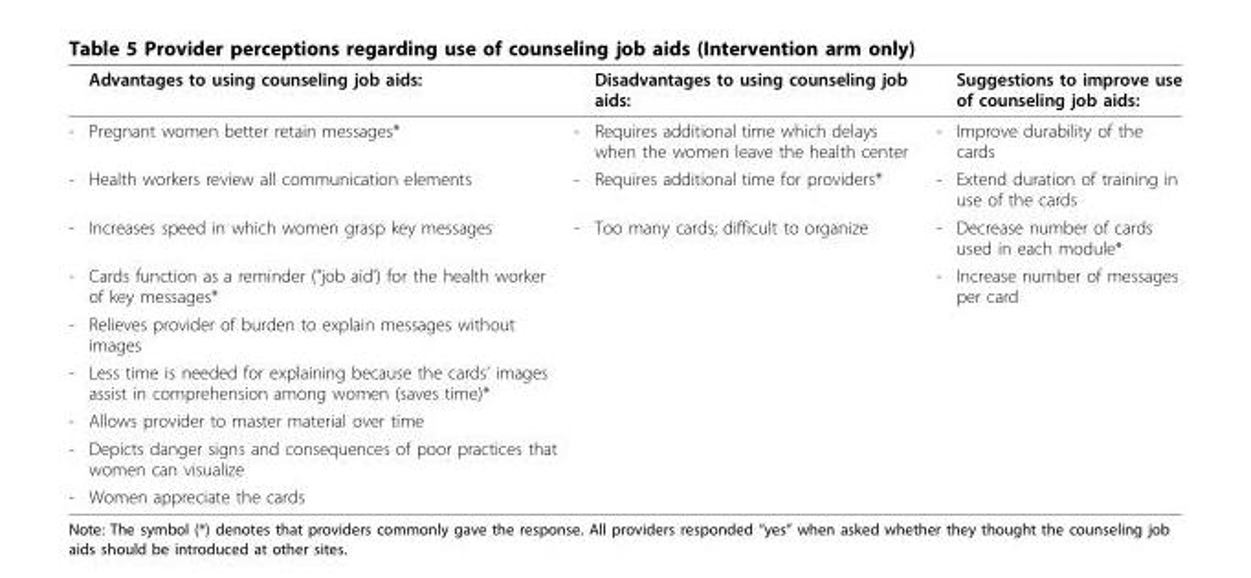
<table><thead><tr><td></td><td>Advantages to using counseling job aids:</td><td></td><td>Disadvantages to using counseling job aids:</td><td></td><td>Suggestions to improve use of counseling job aids:</td></tr></thead><tbody><tr><td>-</td><td>Pregnant women better retain messages*</td><td>-</td><td>Requires additional time which delays when the women leave the health center</td><td>-</td><td>Improve durability of the cards</td></tr><tr><td>-</td><td>Health workers review all communication elements</td><td>-</td><td>Requires additional time for providers*</td><td>-</td><td>Extend duration of training in use of the cards</td></tr><tr><td>-</td><td>Increases speed in which women grasp key messages</td><td>-</td><td>Too many cards; difficult to organize</td><td>-</td><td>Decrease number of cards used in each module*</td></tr><tr><td>-</td><td>Cards function as a reminder (&quot;job aid’) for the health worker of key messages*</td><td></td><td></td><td>-</td><td>Increase number of messages per card</td></tr><tr><td>-</td><td>Relieves provider of burden to explain messages without images</td><td></td><td></td><td></td><td></td></tr><tr><td>-</td><td>Less time is needed for explaining because the cards’ images assist in comprehension among women (saves time)*</td><td></td><td></td><td></td><td></td></tr><tr><td>-</td><td>Allows provider to master material over time</td><td></td><td></td><td></td><td></td></tr><tr><td>-</td><td>Depicts danger signs and consequences of poor practices that women can visualize</td><td></td><td></td><td></td><td></td></tr><tr><td>-</td><td>Women appreciate the cards</td><td></td><td></td><td></td><td></td></tr></tbody></table>